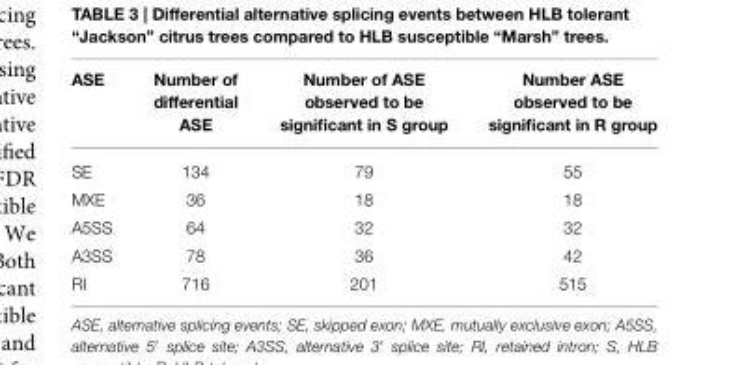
<table><thead><tr><td>ASE</td><td>Number of differential ASE</td><td>Number of ASE observed to be significant in S group</td><td>Number ASE observed to be significant in R group</td></tr></thead><tbody><tr><td>SE</td><td>134</td><td>79</td><td>55</td></tr><tr><td>MXE</td><td>36</td><td>18</td><td>18</td></tr><tr><td>A5SS</td><td>64</td><td>32</td><td>32</td></tr><tr><td>A3SS</td><td>78</td><td>36</td><td>42</td></tr><tr><td>RI</td><td>716</td><td>201</td><td>515</td></tr></tbody></table>